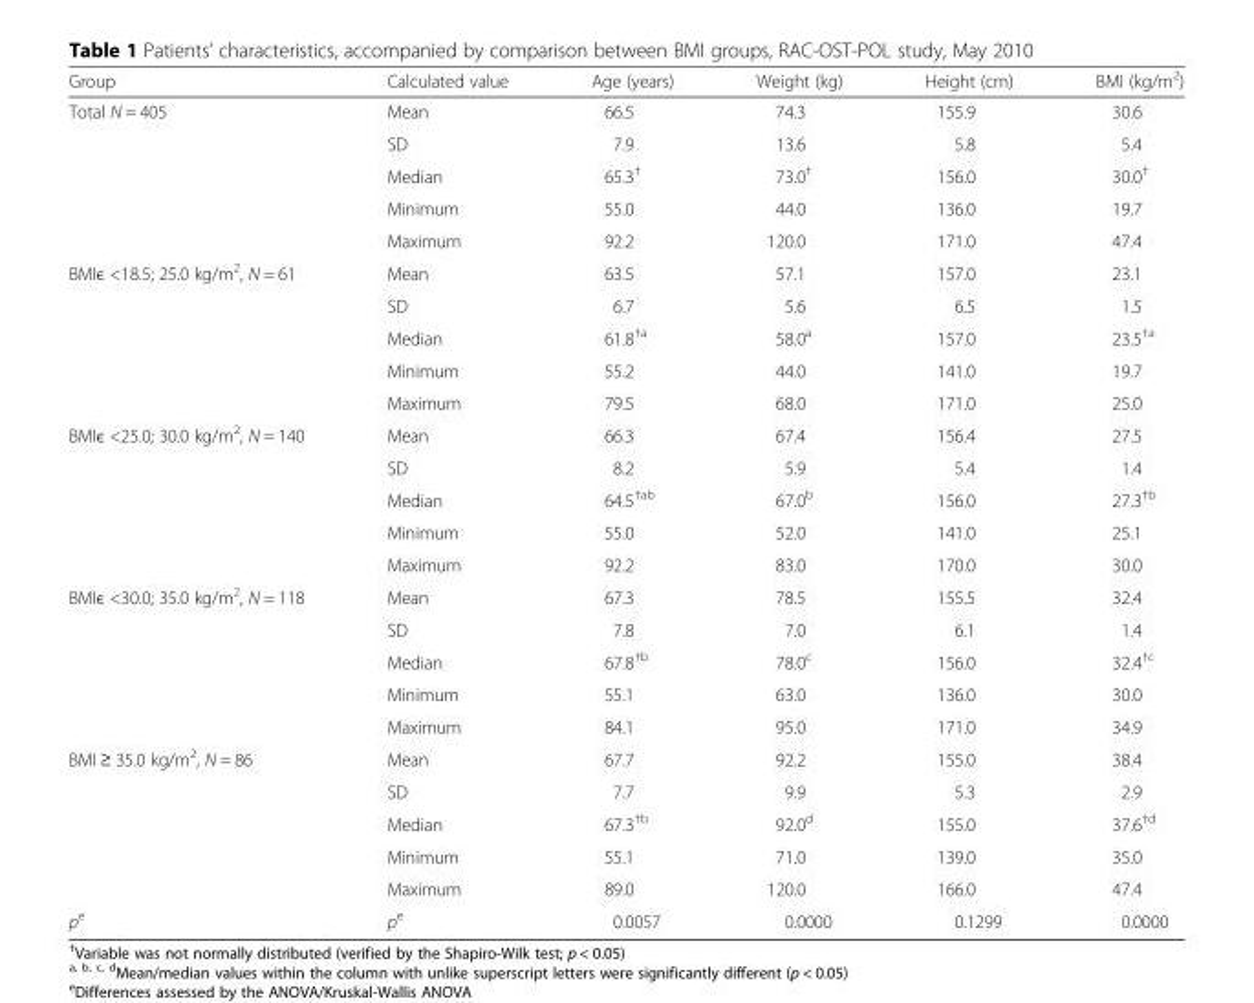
<table><thead><tr><td>Group</td><td>Calculated value</td><td>Age (years)</td><td>Weight (kg)</td><td>Height (cm)</td><td>BMI (kg/m<sup>2</sup>)</td></tr></thead><tbody><tr><td rowspan="5">Total N = 405</td><td>Mean</td><td>66.5</td><td>74.3</td><td>155.9</td><td>30.6</td></tr><tr><td>SD</td><td>7.9</td><td>13.6</td><td>5.8</td><td>5.4</td></tr><tr><td>Median</td><td>65.3<sup>†</sup></td><td>73.0<sup>†</sup></td><td>156.0</td><td>30.0<sup>†</sup></td></tr><tr><td>Minimum</td><td>55.0</td><td>44.0</td><td>136.0</td><td>19.7</td></tr><tr><td>Maximum</td><td>92.2</td><td>120.0</td><td>171.0</td><td>47.4</td></tr><tr><td rowspan="5">BMIϵ &lt;18.5; 25.0 kg/m<sup>2</sup>, N = 61</td><td>Mean</td><td>63.5</td><td>57.1</td><td>157.0</td><td>23.1</td></tr><tr><td>SD</td><td>6.7</td><td>5.6</td><td>6.5</td><td>1.5</td></tr><tr><td>Median</td><td>61.8<sup>†a</sup></td><td>58.0<sup>a</sup></td><td>157.0</td><td>23.5<sup>†a</sup></td></tr><tr><td>Minimum</td><td>55.2</td><td>44.0</td><td>141.0</td><td>19.7</td></tr><tr><td>Maximum</td><td>79.5</td><td>68.0</td><td>171.0</td><td>25.0</td></tr><tr><td rowspan="5">BMIϵ &lt;25.0; 30.0 kg/m<sup>2</sup>, N = 140</td><td>Mean</td><td>66.3</td><td>67.4</td><td>156.4</td><td>27.5</td></tr><tr><td>SD</td><td>8.2</td><td>5.9</td><td>5.4</td><td>1.4</td></tr><tr><td>Median</td><td>64.5<sup>†ab</sup></td><td>67.0<sup>b</sup></td><td>156.0</td><td>27.3<sup>†b</sup></td></tr><tr><td>Minimum</td><td>55.0</td><td>52.0</td><td>141.0</td><td>25.1</td></tr><tr><td>Maximum</td><td>92.2</td><td>83.0</td><td>170.0</td><td>30.0</td></tr><tr><td rowspan="5">BMIϵ &lt;30.0; 35.0 kg/m<sup>2</sup>, N = 118</td><td>Mean</td><td>67.3</td><td>78.5</td><td>155.5</td><td>32.4</td></tr><tr><td>SD</td><td>7.8</td><td>7.0</td><td>6.1</td><td>1.4</td></tr><tr><td>Median</td><td>67.8<sup>†b</sup></td><td>78.0<sup>c</sup></td><td>156.0</td><td>32.4<sup>†c</sup></td></tr><tr><td>Minimum</td><td>55.1</td><td>63.0</td><td>136.0</td><td>30.0</td></tr><tr><td>Maximum</td><td>84.1</td><td>95.0</td><td>171.0</td><td>34.9</td></tr><tr><td rowspan="5">BMI ≥ 35.0 kg/m<sup>2</sup>, N = 86</td><td>Mean</td><td>67.7</td><td>92.2</td><td>155.0</td><td>38.4</td></tr><tr><td>SD</td><td>7.7</td><td>9.9</td><td>5.3</td><td>2.9</td></tr><tr><td>Median</td><td>67.3<sup>†b</sup></td><td>92.0<sup>d</sup></td><td>155.0</td><td>37.6<sup>†d</sup></td></tr><tr><td>Minimum</td><td>55.1</td><td>71.0</td><td>139.0</td><td>35.0</td></tr><tr><td>Maximum</td><td>89.0</td><td>120.0</td><td>166.0</td><td>47.4</td></tr><tr><td>p<sup>e</sup></td><td>p<sup>e</sup></td><td>0.0057</td><td>0.0000</td><td>0.1299</td><td>0.0000</td></tr></tbody></table>